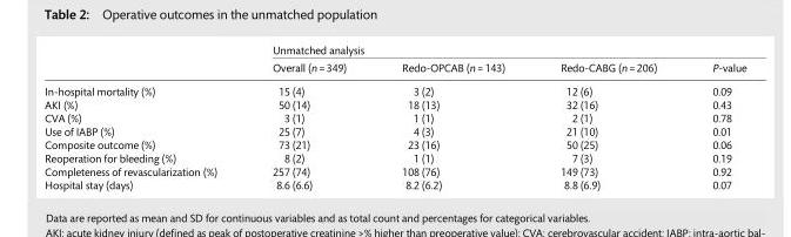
<table><thead><tr><td rowspan="2"></td><td colspan="4">Unmatched analysis</td></tr><tr><td>Overall (n = 349)</td><td>Redo-OPCAB (n = 143)</td><td>Redo-CABG (n = 206)</td><td>P-value</td></tr></thead><tbody><tr><td>In-hospital mortality (%)</td><td>15 (4)</td><td>3 (2)</td><td>12 (6)</td><td>0.09</td></tr><tr><td>AKI (%)</td><td>50 (14)</td><td>18 (13)</td><td>32 (16)</td><td>0.43</td></tr><tr><td>CVA (%)</td><td>3 (1)</td><td>1 (1)</td><td>2 (1)</td><td>0.78</td></tr><tr><td>Use of IABP (%)</td><td>25 (7)</td><td>4 (3)</td><td>21 (10)</td><td>0.01</td></tr><tr><td>Composite outcome (%)</td><td>73 (21)</td><td>23 (16)</td><td>50 (25)</td><td>0.06</td></tr><tr><td>Reoperation for bleeding (%)</td><td>8 (2)</td><td>1 (1)</td><td>7 (3)</td><td>0.19</td></tr><tr><td>Completeness of revascularization (%)</td><td>257 (74)</td><td>108 (76)</td><td>149 (73)</td><td>0.92</td></tr><tr><td>Hospital stay (days)</td><td>8.6 (6.6)</td><td>8.2 (6.2)</td><td>8.8 (6.9)</td><td>0.07</td></tr></tbody></table>